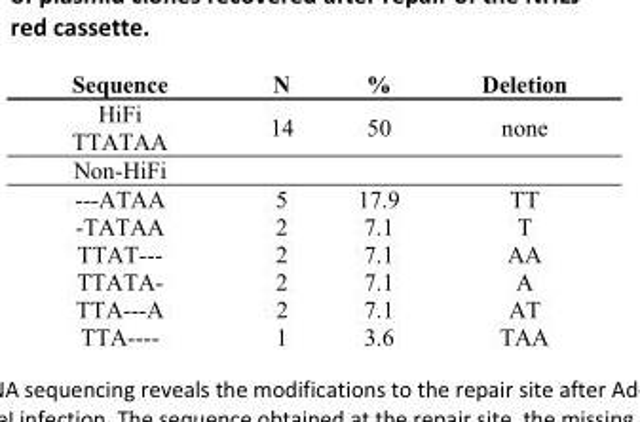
<table><thead><tr><td>Sequence</td><td>N</td><td>%</td><td>Deletion</td></tr></thead><tbody><tr><td>HiFi TTATAA</td><td>14</td><td>50</td><td>none</td></tr><tr><td colspan="4">Non-HiFi</td></tr><tr><td>---ATAA</td><td>5</td><td>17.9</td><td>TT</td></tr><tr><td>-TATAA</td><td>2</td><td>7.1</td><td>T</td></tr><tr><td>TTAT---</td><td>2</td><td>7.1</td><td>AA</td></tr><tr><td>TTATA-</td><td>2</td><td>7.1</td><td>A</td></tr><tr><td>TTA---A</td><td>2</td><td>7.1</td><td>AT</td></tr><tr><td>TTA----</td><td>1</td><td>3.6</td><td>TAA</td></tr></tbody></table>